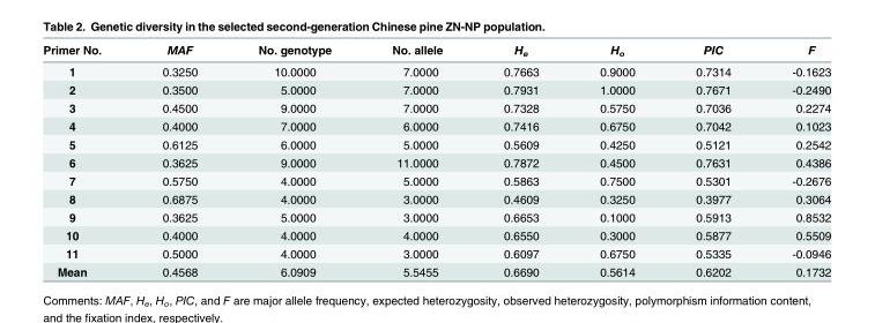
<table><thead><tr><td>Primer No.</td><td>MAF</td><td>No. genotype</td><td>No. allele</td><td>H<sub>e</sub></td><td>H<sub>o</sub></td><td>PIC</td><td>F</td></tr></thead><tbody><tr><td>1</td><td>0.3250</td><td>10.0000</td><td>7.0000</td><td>0.7663</td><td>0.9000</td><td>0.7314</td><td>-0.1623</td></tr><tr><td>2</td><td>0.3500</td><td>5.0000</td><td>7.0000</td><td>0.7931</td><td>1.0000</td><td>0.7671</td><td>-0.2490</td></tr><tr><td>3</td><td>0.4500</td><td>9.0000</td><td>7.0000</td><td>0.7328</td><td>0.5750</td><td>0.7036</td><td>0.2274</td></tr><tr><td>4</td><td>0.4000</td><td>7.0000</td><td>6.0000</td><td>0.7416</td><td>0.6750</td><td>0.7042</td><td>0.1023</td></tr><tr><td>5</td><td>0.6125</td><td>6.0000</td><td>5.0000</td><td>0.5609</td><td>0.4250</td><td>0.5121</td><td>0.2542</td></tr><tr><td>6</td><td>0.3625</td><td>9.0000</td><td>11.0000</td><td>0.7872</td><td>0.4500</td><td>0.7631</td><td>0.4386</td></tr><tr><td>7</td><td>0.5750</td><td>4.0000</td><td>5.0000</td><td>0.5863</td><td>0.7500</td><td>0.5301</td><td>-0.2676</td></tr><tr><td>8</td><td>0.6875</td><td>4.0000</td><td>3.0000</td><td>0.4609</td><td>0.3250</td><td>0.3977</td><td>0.3064</td></tr><tr><td>9</td><td>0.3625</td><td>5.0000</td><td>3.0000</td><td>0.6653</td><td>0.1000</td><td>0.5913</td><td>0.8532</td></tr><tr><td>10</td><td>0.4000</td><td>4.0000</td><td>4.0000</td><td>0.6550</td><td>0.3000</td><td>0.5877</td><td>0.5509</td></tr><tr><td>11</td><td>0.5000</td><td>4.0000</td><td>3.0000</td><td>0.6097</td><td>0.6750</td><td>0.5335</td><td>-0.0946</td></tr><tr><td>Mean</td><td>0.4568</td><td>6.0909</td><td>5.5455</td><td>0.6690</td><td>0.5614</td><td>0.6202</td><td>0.1732</td></tr></tbody></table>